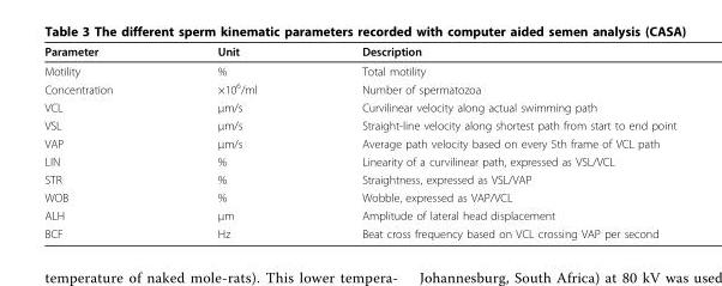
<table><thead><tr><td>Parameter</td><td>Unit</td><td>Description</td></tr></thead><tbody><tr><td>Motility</td><td>%</td><td>Total motility</td></tr><tr><td>Concentration</td><td>×10<sup>6</sup>/ml</td><td>Number of spermatozoa</td></tr><tr><td>VCL</td><td>μm/s</td><td>Curvilinear velocity along actual swimming path</td></tr><tr><td>VSL</td><td>μm/s</td><td>Straight-line velocity along shortest path from start to end point</td></tr><tr><td>VAP</td><td>μm/s</td><td>Average path velocity based on every 5th frame of VCL path</td></tr><tr><td>LIN</td><td>%</td><td>Linearity of a curvilinear path, expressed as VSL/VCL</td></tr><tr><td>STR</td><td>%</td><td>Straightness, expressed as VSL/VAP</td></tr><tr><td>WOB</td><td>%</td><td>Wobble, expressed as VAP/VCL</td></tr><tr><td>ALH</td><td>μm</td><td>Amplitude of lateral head displacement</td></tr><tr><td>BCF</td><td>Hz</td><td>Beat cross frequency based on VCL crossing VAP per second</td></tr></tbody></table>